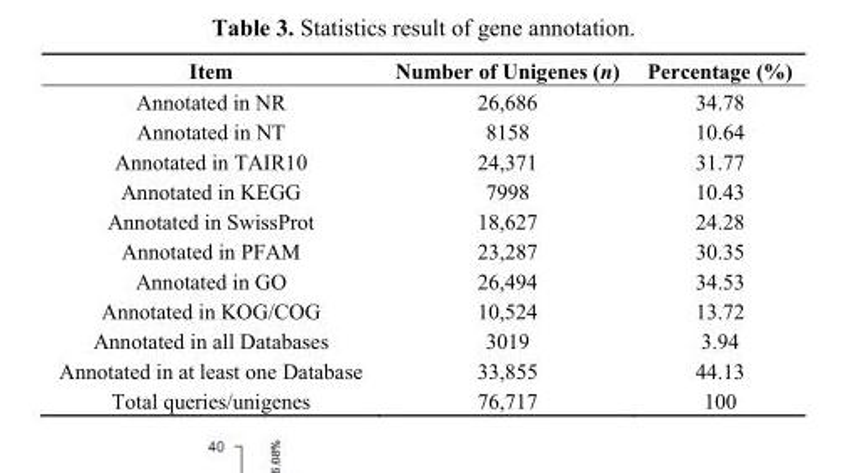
<table><thead><tr><td>Item</td><td>Number of Unigenes (n)</td><td>Percentage (%)</td></tr></thead><tbody><tr><td>Annotated in NR</td><td>26,686</td><td>34.78</td></tr><tr><td>Annotated in NT</td><td>8158</td><td>10.64</td></tr><tr><td>Annotated in TAIR10</td><td>24,371</td><td>31.77</td></tr><tr><td>Annotated in KEGG</td><td>7998</td><td>10.43</td></tr><tr><td>Annotated in SwissProt</td><td>18,627</td><td>24.28</td></tr><tr><td>Annotated in PFAM</td><td>23,287</td><td>30.35</td></tr><tr><td>Annotated in GO</td><td>26,494</td><td>34.53</td></tr><tr><td>Annotated in KOG/COG</td><td>10,524</td><td>13.72</td></tr><tr><td>Annotated in all Databases</td><td>3019</td><td>3.94</td></tr><tr><td>Annotated in at least one Database</td><td>33,855</td><td>44.13</td></tr><tr><td>Total queries/unigenes</td><td>76,717</td><td>100</td></tr></tbody></table>